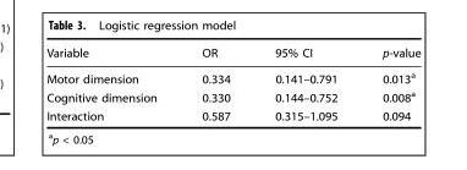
<table><thead><tr><td>Variable</td><td>OR</td><td>95% CI</td><td>p-value</td></tr></thead><tbody><tr><td>Motor dimension</td><td>0.334</td><td>0.141–0.791</td><td>0.013<sup>a</sup></td></tr><tr><td>Cognitive dimension</td><td>0.330</td><td>0.144–0.752</td><td>0.008<sup>a</sup></td></tr><tr><td>Interaction</td><td>0.587</td><td>0.315–1.095</td><td>0.094</td></tr></tbody></table>